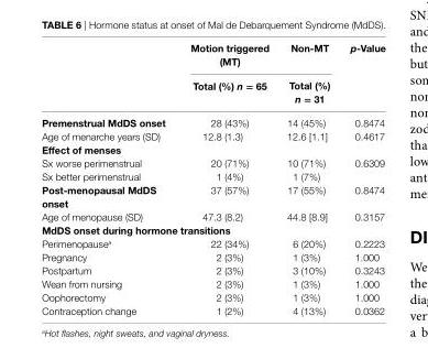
<table><thead><tr><td rowspan="2"></td><td rowspan="2">Motion triggered (MT) Total (%) n = 65</td><td rowspan="2">non-MT Total (%) n = 31</td><td rowspan="2">p-Value</td></tr><tr></tr></thead><tbody><tr><td>Premenstrual MdDs onset</td><td>28 (43%)</td><td>14 (45%)</td><td>0.8474</td></tr><tr><td>Age of menarche years (SD)</td><td>12.8 (1.3)</td><td>12.6 [1.1]</td><td>0.4617</td></tr><tr><td colspan="4">effect of menses</td></tr><tr><td>Sx worse perimenstrual</td><td>20 (71%)</td><td>10 (71%)</td><td>0.6309</td></tr><tr><td>Sx better perimenstrual</td><td>1 (4%)</td><td>1 (7%)</td><td></td></tr><tr><td>Post-menopausal MdDs onset</td><td>37 (57%)</td><td>17 (55%)</td><td>0.8474</td></tr><tr><td>Age of menopause (SD)</td><td>47.3 (8.2)</td><td>44.8 [8.9]</td><td>0.3157</td></tr><tr><td colspan="4">MdDs onset during hormone transitions</td></tr><tr><td>Perimenopause<sup>a</sup></td><td>22 (34%)</td><td>6 (20%)</td><td>0.2223</td></tr><tr><td>Pregnancy</td><td>2 (3%)</td><td>1 (3%)</td><td>1.000</td></tr><tr><td>Postpartum</td><td>2 (3%)</td><td>3 (10%)</td><td>0.3243</td></tr><tr><td>Wean from nursing</td><td>2 (3%)</td><td>1 (3%)</td><td>1.000</td></tr><tr><td>Oophorectomy</td><td>2 (3%)</td><td>1 (3%)</td><td>1.000</td></tr><tr><td>Contraception change</td><td>1 (2%)</td><td>4 (13%)</td><td>0.0362</td></tr></tbody></table>